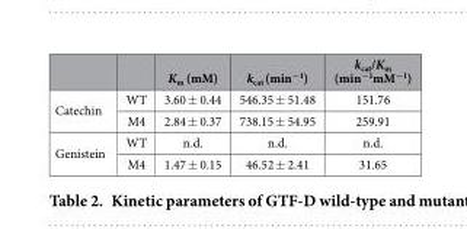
<table><thead><tr><td></td><td></td><td>K<sub>m</sub> (mM)</td><td>k<sub>cat</sub> (min<sup>−1</sup>)</td><td>k<sub>cat</sub>/K<sub>m</sub> (min<sup>−1</sup>mM<sup>−1</sup>)</td></tr></thead><tbody><tr><td rowspan="2">Catechin</td><td>WT</td><td>3.60 ± 0.44</td><td>546.35 ± 51.48</td><td>151.76</td></tr><tr><td>M4</td><td>2.84 ± 0.37</td><td>738.15 ± 54.95</td><td>259.91</td></tr><tr><td rowspan="2">Genistein</td><td>WT</td><td>n.d.</td><td>n.d.</td><td>n.d.</td></tr><tr><td>M4</td><td>1.47 ± 0.15</td><td>46.52 ± 2.41</td><td>31.65</td></tr></tbody></table>